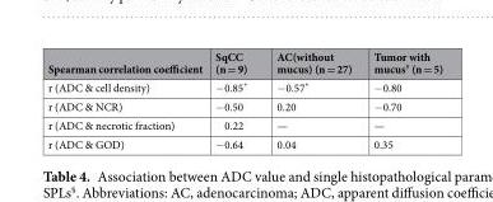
<table><thead><tr><td>Spearman correlation coefficient</td><td>SqCC (n = 9)</td><td>AC(without mucus) (n = 27)</td><td>Tumor with mucus<sup>†</sup> (n = 5)</td></tr></thead><tbody><tr><td>r (ADC &amp; cell density)</td><td>−0.85*</td><td>−0.57*</td><td>−0.80</td></tr><tr><td>r (ADC &amp; NCR)</td><td>−0.50</td><td>0.20</td><td>−0.70</td></tr><tr><td>r (ADC &amp; necrotic fraction)</td><td>0.22</td><td>—</td><td>—</td></tr><tr><td>r (ADC &amp; GOD)</td><td>−0.64</td><td>0.04</td><td>0.35</td></tr></tbody></table>